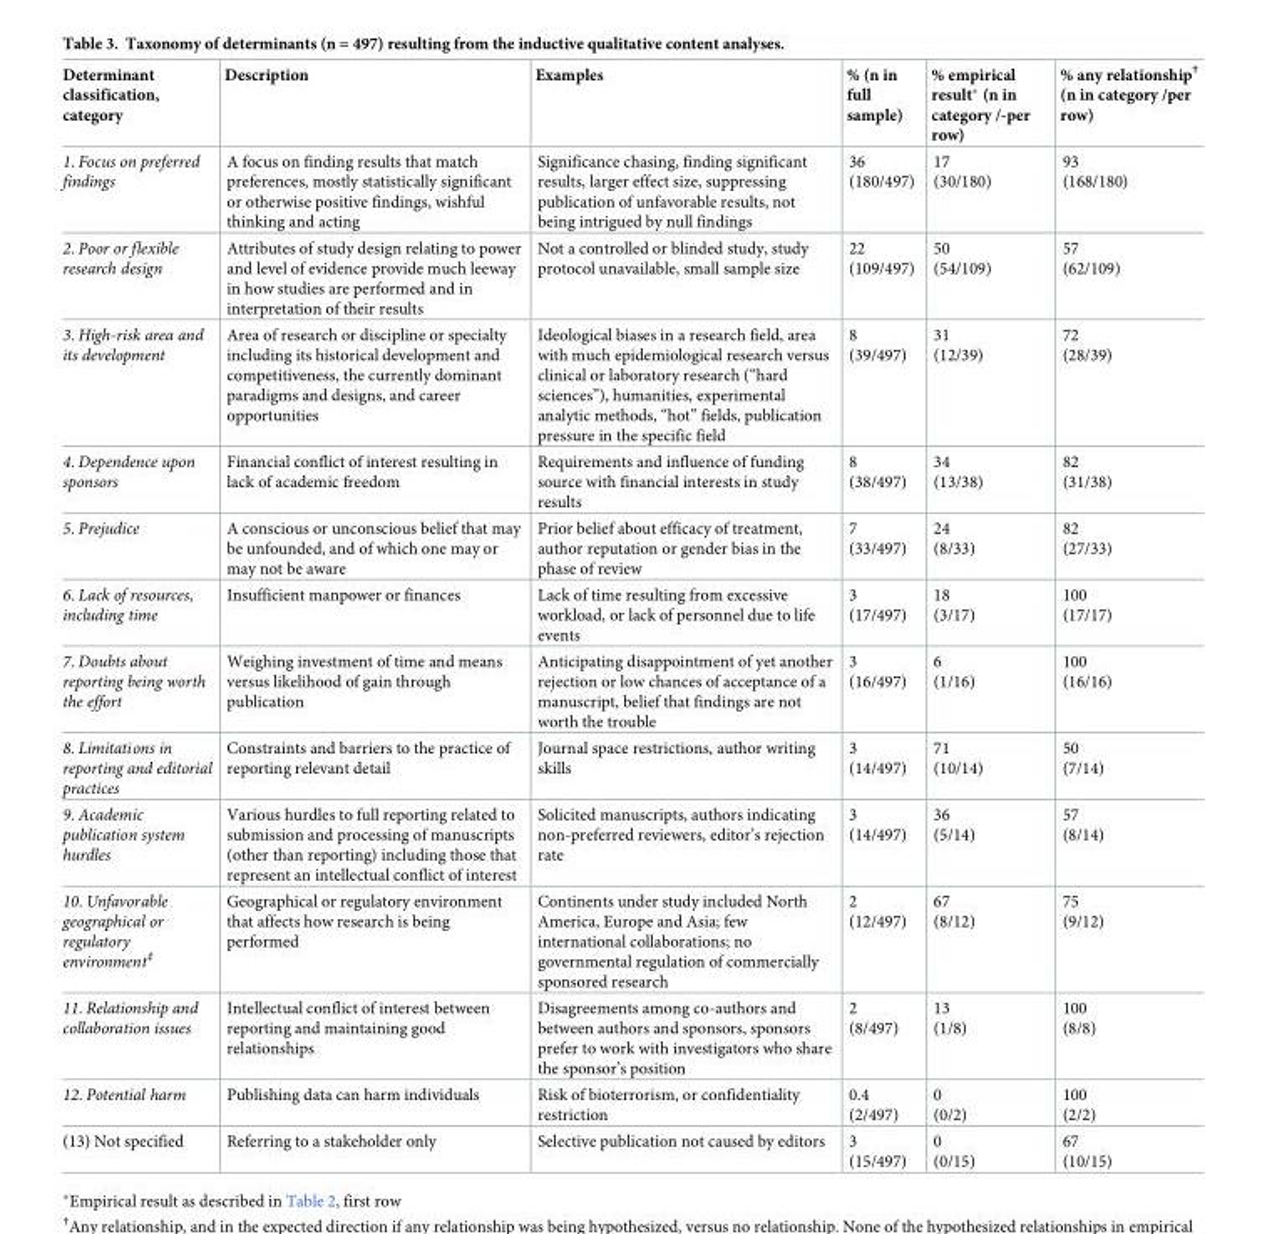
<table><thead><tr><td>Determinant classification, category</td><td>Description</td><td>Examples</td><td>% (n in full sample)</td><td>% empirical result* (n in category /-per row)</td><td>% any relationship<sup>†</sup> (n in category /per row)</td></tr></thead><tbody><tr><td>1. Focus on preferred findings</td><td>A focus on finding results that match preferences, mostly statistically significant or otherwise positive findings, wishful thinking and acting</td><td>Significance chasing, finding significant results, larger effect size, suppressing publication of unfavorable results, not being intrigued by null findings</td><td>36 (180/497)</td><td>17 (30/180)</td><td>93 (168/180)</td></tr><tr><td>2. Poor or flexible research design</td><td>Attributes of study design relating to power and level of evidence provide much leeway in how studies are performed and in interpretation of their results</td><td>Not a controlled or blinded study, study protocol unavailable, small sample size</td><td>22 (109/497)</td><td>50 (54/109)</td><td>57 (62/109)</td></tr><tr><td>3. High-risk area and its development</td><td>Area of research or discipline or specialty including its historical development and competitiveness, the currently dominant paradigms and designs, and career opportunities</td><td>Ideological biases in a research field, area with much epidemiological research versus clinical or laboratory research (“hard sciences”), humanities, experimental analytic methods, “hot” fields, publication pressure in the specific field</td><td>8 (39/497)</td><td>31 (12/39)</td><td>72 (28/39)</td></tr><tr><td>4. Dependence upon sponsors</td><td>Financial conflict of interest resulting in lack of academic freedom</td><td>Requirements and influence of funding source with financial interests in study results</td><td>8 (38/497)</td><td>34 (13/38)</td><td>82 (31/38)</td></tr><tr><td>5. Prejudice</td><td>A conscious or unconscious belief that may be unfounded, and of which one may or may not be aware</td><td>Prior belief about efficacy of treatment, author reputation or gender bias in the phase of review</td><td>7 (33/497)</td><td>24 (8/33)</td><td>82 (27/33)</td></tr><tr><td>6. Lack of resources, including time</td><td>Insufficient manpower or finances</td><td>Lack of time resulting from excessive workload, or lack of personnel due to life events</td><td>3 (17/497)</td><td>18 (3/17)</td><td>100 (17/17)</td></tr><tr><td>7. Doubts about reporting being worth the effort</td><td>Weighing investment of time and means versus likelihood of gain through publication</td><td>Anticipating disappointment of yet another rejection or low chances of acceptance of a manuscript, belief that findings are not worth the trouble</td><td>3 (16/497)</td><td>6 (1/16)</td><td>100 (16/16)</td></tr><tr><td>8. Limitations in reporting and editorial practices</td><td>Constraints and barriers to the practice of reporting relevant detail</td><td>Journal space restrictions, author writing skills</td><td>3 (14/497)</td><td>71 (10/14)</td><td>50 (7/14)</td></tr><tr><td>9. Academic publication system hurdles</td><td>Various hurdles to full reporting related to submission and processing of manuscripts (other than reporting) including those that represent an intellectual conflict of interest</td><td>Solicited manuscripts, authors indicating non-preferred reviewers, editor’s rejection rate</td><td>3 (14/497)</td><td>36 (5/14)</td><td>57 (8/14)</td></tr><tr><td>10. Unfavorable geographical or regulatory environment<sup>‡</sup></td><td>Geographical or regulatory environment that affects how research is being performed</td><td>Continents under study included North America, Europe and Asia; few international collaborations; no governmental regulation of commercially sponsored research</td><td>2 (12/497)</td><td>67 (8/12)</td><td>75 (9/12)</td></tr><tr><td>11. Relationship and collaboration issues</td><td>Intellectual conflict of interest between reporting and maintaining good relationships</td><td>Disagreements among co-authors and between authors and sponsors, sponsors prefer to work with investigators who share the sponsor’s position</td><td>2 (8/497)</td><td>13 (1/8)</td><td>100 (8/8)</td></tr><tr><td>12. Potential harm</td><td>Publishing data can harm individuals</td><td>Risk of bioterrorism, or confidentiality restriction</td><td>0.4 (2/497)</td><td>0 (0/2)</td><td>100 (2/2)</td></tr><tr><td>(13) Not specified</td><td>Referring to a stakeholder only</td><td>Selective publication not caused by editors</td><td>3 (15/497)</td><td>0 (0/15)</td><td>67 (10/15)</td></tr></tbody></table>